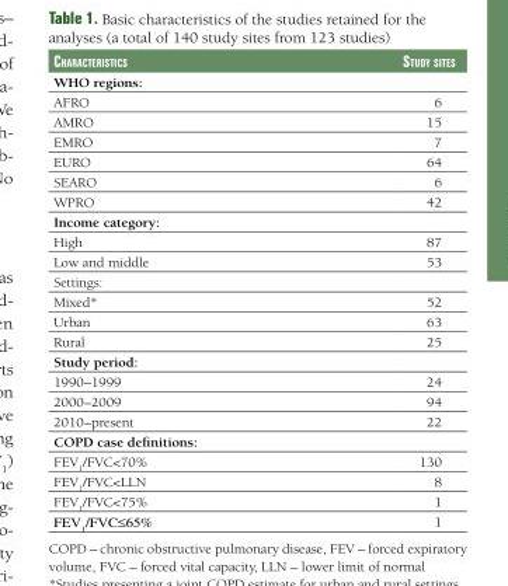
<table><thead><tr><td>CharaCteristiCs</td><td>study sites</td></tr></thead><tbody><tr><td colspan="2">WHO regions:</td></tr><tr><td>AFRO</td><td>6</td></tr><tr><td>AMRO</td><td>15</td></tr><tr><td>EMRO</td><td>7</td></tr><tr><td>EURO</td><td>64</td></tr><tr><td>SEARO</td><td>6</td></tr><tr><td>WPRO</td><td>42</td></tr><tr><td colspan="2">Income category:</td></tr><tr><td>High</td><td>87</td></tr><tr><td>Low and middle</td><td>53</td></tr><tr><td colspan="2">Settings:</td></tr><tr><td>Mixed*</td><td>52</td></tr><tr><td>Urban</td><td>63</td></tr><tr><td>Rural</td><td>25</td></tr><tr><td colspan="2">Study period:</td></tr><tr><td>1990–1999</td><td>24</td></tr><tr><td>2000–2009</td><td>94</td></tr><tr><td>2010–present</td><td>22</td></tr><tr><td colspan="2">COPD case definitions:</td></tr><tr><td>FEV<sub>1</sub>/FVC&lt;70%</td><td>130</td></tr><tr><td>FEV<sub>1</sub>/FVC&lt;LLN</td><td>8</td></tr><tr><td>FEV<sub>1</sub>/FVC&lt;75%</td><td>1</td></tr><tr><td>FEV<sub>1</sub>/FVC≤65%</td><td>1</td></tr></tbody></table>